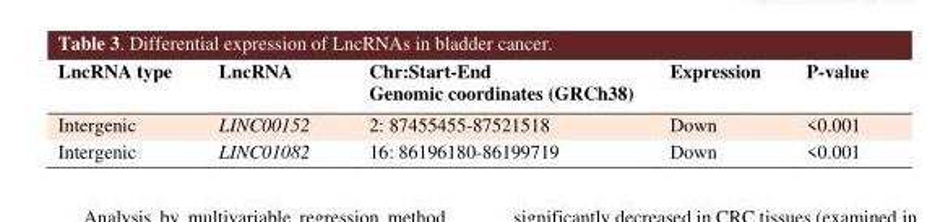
<table><thead><tr><td>LncRNA type</td><td>LncRNA</td><td>Chr:Start-End Genomic coordinates (GRCh38)</td><td>Expression</td><td>P-value</td></tr></thead><tbody><tr><td>Intergenic</td><td>LINC00152</td><td>2: 87455455-87521518</td><td>Down</td><td>&lt;0.001</td></tr><tr><td>Intergenic</td><td>LINC01082</td><td>16: 86196180-86199719</td><td>Down</td><td>&lt;0.001</td></tr></tbody></table>